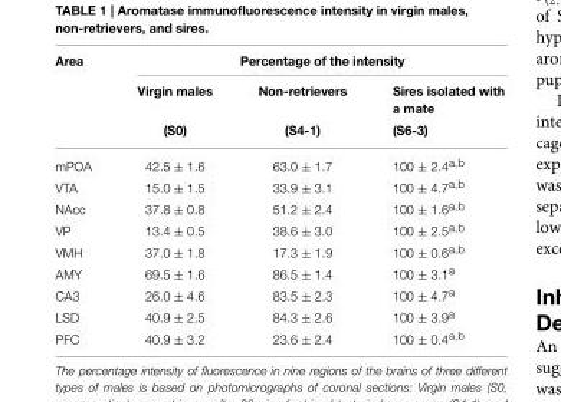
<table><thead><tr><td rowspan="2">Area</td><td colspan="3">Percentage of the intensity</td></tr><tr><td>Virgin males (S0)</td><td>Non-retrievers (S4-1)</td><td>Sires isolated with a mate (S6-3)</td></tr></thead><tbody><tr><td>mPOA</td><td>42.5 ± 1.6</td><td>63.0 ± 1.7</td><td>100 ± 2.4<sup>a,b</sup></td></tr><tr><td>VTA</td><td>15.0 ± 1.5</td><td>33.9 ± 3.1</td><td>100 ± 4.7<sup>a,b</sup></td></tr><tr><td>NAcc</td><td>37.8 ± 0.8</td><td>51.2 ± 2.4</td><td>100 ± 1.6<sup>a,b</sup></td></tr><tr><td>VP</td><td>13.4 ± 0.5</td><td>38.6 ± 3.0</td><td>100 ± 2.5<sup>a,b</sup></td></tr><tr><td>VMH</td><td>37.0 ± 1.8</td><td>17.3 ± 1.9</td><td>100 ± 0.6<sup>a,b</sup></td></tr><tr><td>AMY</td><td>69.5 ± 1.6</td><td>86.5 ± 1.4</td><td>100 ± 3.1<sup>a</sup></td></tr><tr><td>CA3</td><td>26.0 ± 4.6</td><td>83.5 ± 2.3</td><td>100 ± 4.7<sup>a</sup></td></tr><tr><td>LSD</td><td>40.9 ± 2.5</td><td>84.3 ± 2.6</td><td>100 ± 3.9<sup>a</sup></td></tr><tr><td>PFC</td><td>40.9 ± 3.2</td><td>23.6 ± 2.4</td><td>100 ± 0.4<sup>a,b</sup></td></tr></tbody></table>